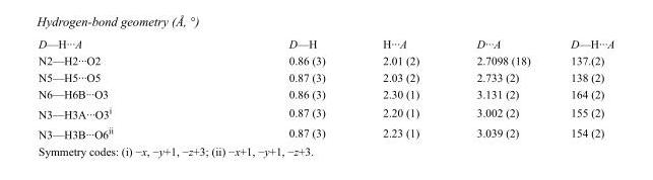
<table><tbody><tr><td>D—H···A</td><td>D—H</td><td>H···A</td><td>D···A</td><td>D—H···A</td></tr><tr><td>N2—H2···O2</td><td>0.86 (3)</td><td>2.01 (2)</td><td>2.7098 (18)</td><td>137.(2)</td></tr><tr><td>N5—H5···O5</td><td>0.87 (3)</td><td>2.03 (2)</td><td>2.733 (2)</td><td>138 (2)</td></tr><tr><td>N6—H6B···O3</td><td>0.86 (3)</td><td>2.30 (1)</td><td>3.131 (2)</td><td>164 (2)</td></tr><tr><td>N3—H3A···O3<sup>i</sup></td><td>0.87 (3)</td><td>2.20 (1)</td><td>3.002 (2)</td><td>155 (2)</td></tr><tr><td>N3—H3B···O6<sup>ii</sup></td><td>0.87 (3)</td><td>2.23 (1)</td><td>3.039 (2)</td><td>154 (2)</td></tr></tbody></table>